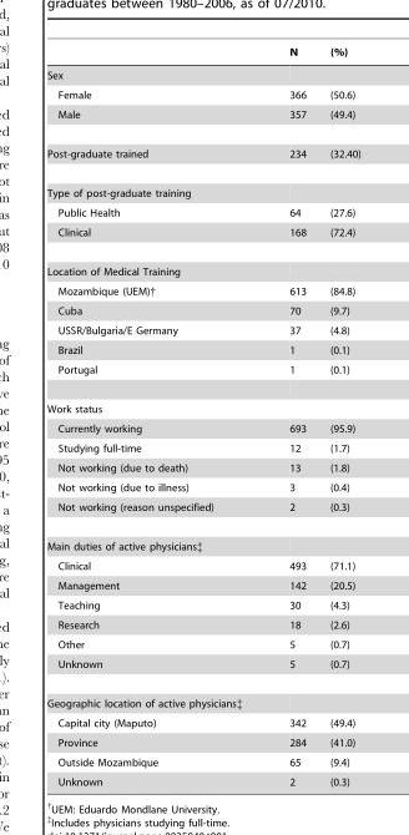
<table><thead><tr><td></td><td>N</td><td>(%)</td></tr></thead><tbody><tr><td colspan="3">Sex</td></tr><tr><td>Female</td><td>366</td><td>(50.6)</td></tr><tr><td>Male</td><td>357</td><td>(49.4)</td></tr><tr><td>Post-graduate trained</td><td>234</td><td>(32.40)</td></tr><tr><td colspan="3">Type of post-graduate training</td></tr><tr><td>Public Health</td><td>64</td><td>(27.6)</td></tr><tr><td>Clinical</td><td>168</td><td>(72.4)</td></tr><tr><td colspan="3">Location of Medical Training</td></tr><tr><td>Mozambique (UEM)†</td><td>613</td><td>(84.8)</td></tr><tr><td>Cuba</td><td>70</td><td>(9.7)</td></tr><tr><td>USSR/Bulgaria/E Germany</td><td>37</td><td>(4.8)</td></tr><tr><td>Brazil</td><td>1</td><td>(0.1)</td></tr><tr><td>Portugal</td><td>1</td><td>(0.1)</td></tr><tr><td colspan="3">Work status</td></tr><tr><td>Currently working</td><td>693</td><td>(95.9)</td></tr><tr><td>Studying full-time</td><td>12</td><td>(1.7)</td></tr><tr><td>Not working (due to death)</td><td>13</td><td>(1.8)</td></tr><tr><td>Not working (due to illness)</td><td>3</td><td>(0.4)</td></tr><tr><td>Not working (reason unspecified)</td><td>2</td><td>(0.3)</td></tr><tr><td colspan="3">Main duties of active physicians‡</td></tr><tr><td>Clinical</td><td>493</td><td>(71.1)</td></tr><tr><td>Management</td><td>142</td><td>(20.5)</td></tr><tr><td>Teaching</td><td>30</td><td>(4.3)</td></tr><tr><td>Research</td><td>18</td><td>(2.6)</td></tr><tr><td>Other</td><td>5</td><td>(0.7)</td></tr><tr><td>Unknown</td><td>5</td><td>(0.7)</td></tr><tr><td colspan="3">Geographic location of active physicians‡</td></tr><tr><td>Capital city (Maputo)</td><td>342</td><td>(49.4)</td></tr><tr><td>Province</td><td>284</td><td>(41.0)</td></tr><tr><td>Outside Mozambique</td><td>65</td><td>(9.4)</td></tr><tr><td>Unknown</td><td>2</td><td>(0.3)</td></tr></tbody></table>